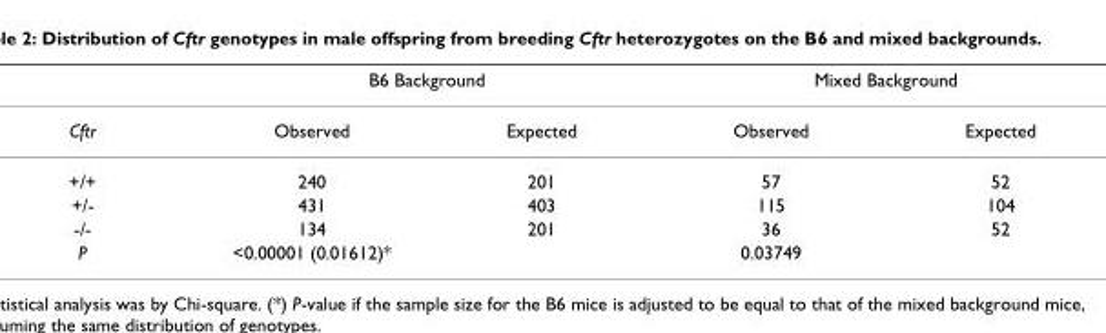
<table><thead><tr><td rowspan="2">Cftr</td><td colspan="2">B6 Background</td><td colspan="2">Mixed Background</td></tr><tr><td>Observed</td><td>Expected</td><td>Observed</td><td>Expected</td></tr></thead><tbody><tr><td>+/+</td><td>240</td><td>201</td><td>57</td><td>52</td></tr><tr><td>+/-</td><td>431</td><td>403</td><td>115</td><td>104</td></tr><tr><td>-/-</td><td>134</td><td>201</td><td>36</td><td>52</td></tr><tr><td>P</td><td>&lt;0.00001 (0.01612)*</td><td></td><td>0.03749</td><td></td></tr></tbody></table>